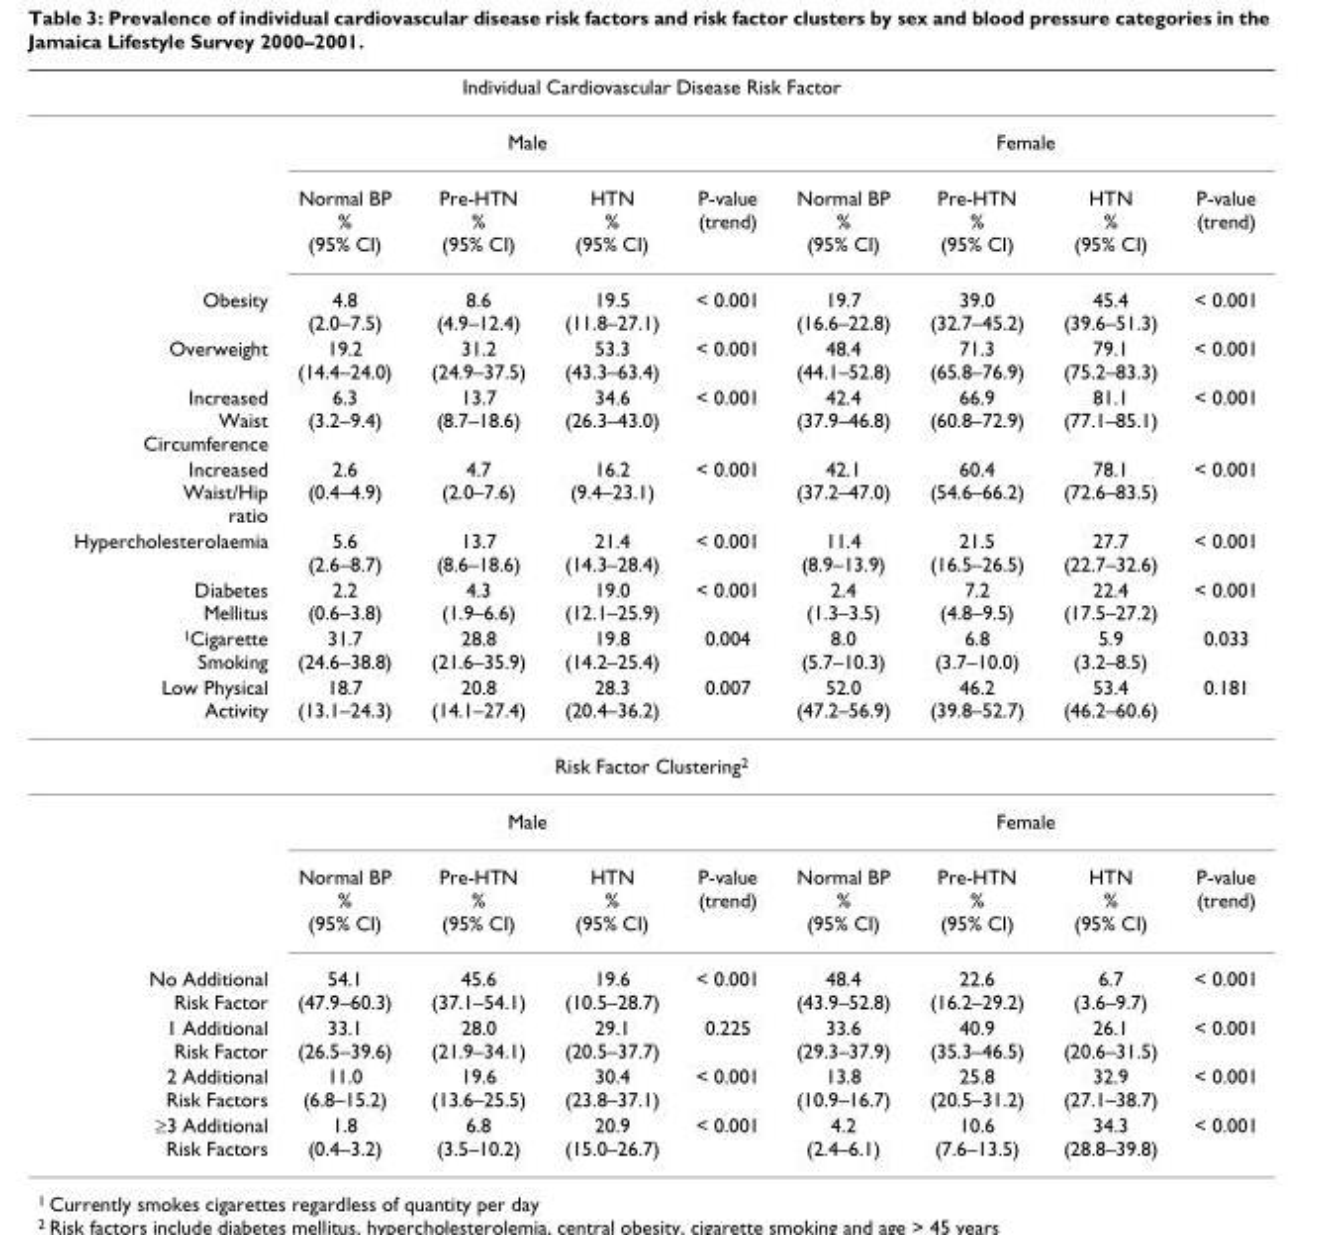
<table><thead><tr><td colspan="9">Individual Cardiovascular Disease Risk Factor</td></tr><tr><td rowspan="2"></td><td colspan="4">Male</td><td colspan="4">Female</td></tr><tr><td>Normal BP % (95% CI)</td><td>Pre-HTN % (95% CI)</td><td>HTN % (95% CI)</td><td>P-value (trend)</td><td>Normal BP % (95% CI)</td><td>Pre-HTN % (95% CI)</td><td>HTN % (95% CI)</td><td>P-value (trend)</td></tr></thead><tbody><tr><td>Obesity</td><td>4.8 (2.0–7.5)</td><td>8.6 (4.9–12.4)</td><td>19.5 (11.8–27.1)</td><td>&lt; 0.001</td><td>19.7 (16.6–22.8)</td><td>39.0 (32.7–45.2)</td><td>45.4 (39.6–51.3)</td><td>&lt; 0.001</td></tr><tr><td>Overweight</td><td>19.2 (14.4–24.0)</td><td>31.2 (24.9–37.5)</td><td>53.3 (43.3–63.4)</td><td>&lt; 0.001</td><td>48.4 (44.1–52.8)</td><td>71.3 (65.8–76.9)</td><td>79.1 (75.2–83.3)</td><td>&lt; 0.001</td></tr><tr><td>Increased Waist Circumference</td><td>6.3 (3.2–9.4)</td><td>13.7 (8.7–18.6)</td><td>34.6 (26.3–43.0)</td><td>&lt; 0.001</td><td>42.4 (37.9–46.8)</td><td>66.9 (60.8–72.9)</td><td>81.1 (77.1–85.1)</td><td>&lt; 0.001</td></tr><tr><td>Increased Waist/Hip ratio</td><td>2.6 (0.4–4.9)</td><td>4.7 (2.0–7.6)</td><td>16.2 (9.4–23.1)</td><td>&lt; 0.001</td><td>42.1 (37.2–47.0)</td><td>60.4 (54.6–66.2)</td><td>78.1 (72.6–83.5)</td><td>&lt; 0.001</td></tr><tr><td>Hypercholesterolaemia</td><td>5.6 (2.6–8.7)</td><td>13.7 (8.6–18.6)</td><td>21.4 (14.3–28.4)</td><td>&lt; 0.001</td><td>11.4 (8.9–13.9)</td><td>21.5 (16.5–26.5)</td><td>27.7 (22.7–32.6)</td><td>&lt; 0.001</td></tr><tr><td>Diabetes Mellitus</td><td>2.2 (0.6–3.8)</td><td>4.3 (1.9–6.6)</td><td>19.0 (12.1–25.9)</td><td>&lt; 0.001</td><td>2.4 (1.3–3.5)</td><td>7.2 (4.8–9.5)</td><td>22.4 (17.5–27.2)</td><td>&lt; 0.001</td></tr><tr><td><sup>1</sup>Cigarette Smoking</td><td>31.7 (24.6–38.8)</td><td>28.8 (21.6–35.9)</td><td>19.8 (14.2–25.4)</td><td>0.004</td><td>8.0 (5.7–10.3)</td><td>6.8 (3.7–10.0)</td><td>5.9 (3.2–8.5)</td><td>0.033</td></tr><tr><td>Low Physical Activity</td><td>18.7 (13.1–24.3)</td><td>20.8 (14.1–27.4)</td><td>28.3 (20.4–36.2)</td><td>0.007</td><td>52.0 (47.2–56.9)</td><td>46.2 (39.8–52.7)</td><td>53.4 (46.2–60.6)</td><td>0.181</td></tr><tr><td colspan="9">Risk Factor Clustering<sup>2</sup></td></tr><tr><td></td><td colspan="4">Male</td><td colspan="4">Female</td></tr><tr><td></td><td>Normal BP % (95% CI)</td><td>Pre-HTN % (95% CI)</td><td>HTN % (95% CI)</td><td>P-value (trend)</td><td>Normal BP % (95% CI)</td><td>Pre-HTN % (95% CI)</td><td>HTN % (95% CI)</td><td>P-value (trend)</td></tr><tr><td>No Additional Risk Factor</td><td>54.1 (47.9–60.3)</td><td>45.6 (37.1–54.1)</td><td>19.6 (10.5–28.7)</td><td>&lt; 0.001</td><td>48.4 (43.9–52.8)</td><td>22.6 (16.2–29.2)</td><td>6.7 (3.6–9.7)</td><td>&lt; 0.001</td></tr><tr><td>1 Additional Risk Factor</td><td>33.1 (26.5–39.6)</td><td>28.0 (21.9–34.1)</td><td>29.1 (20.5–37.7)</td><td>0.225</td><td>33.6 (29.3–37.9)</td><td>40.9 (35.3–46.5)</td><td>26.1 (20.6–31.5)</td><td>&lt; 0.001</td></tr><tr><td>2 Additional Risk Factors</td><td>11.0 (6.8–15.2)</td><td>19.6 (13.6–25.5)</td><td>30.4 (23.8–37.1)</td><td>&lt; 0.001</td><td>13.8 (10.9–16.7)</td><td>25.8 (20.5–31.2)</td><td>32.9 (27.1–38.7)</td><td>&lt; 0.001</td></tr><tr><td>≥3 Additional Risk Factors</td><td>1.8 (0.4–3.2)</td><td>6.8 (3.5–10.2)</td><td>20.9 (15.0–26.7)</td><td>&lt; 0.001</td><td>4.2 (2.4–6.1)</td><td>10.6 (7.6–13.5)</td><td>34.3 (28.8–39.8)</td><td>&lt; 0.001</td></tr></tbody></table>